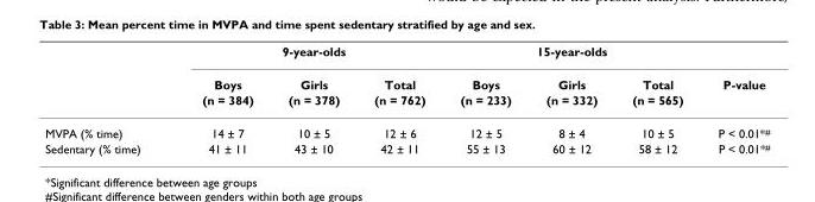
<table><thead><tr><td rowspan="3"></td><td colspan="3">9-year-olds</td><td colspan="3">15-year-olds</td><td rowspan="3">P-value</td></tr><tr><td rowspan="2">Boys (n = 384)</td><td rowspan="2">Girls (n = 378)</td><td rowspan="2">Total (n = 762)</td><td rowspan="2">Boys (n = 233)</td><td rowspan="2">Girls (n = 332)</td><td rowspan="2">Total (n = 565)</td></tr><tr></tr></thead><tbody><tr><td>MVPA (% time)</td><td>14 ± 7</td><td>10 ± 5</td><td>12 ± 6</td><td>12 ± 5</td><td>8 ± 4</td><td>10 ± 5</td><td>P &lt; 0.01*<sup>#</sup></td></tr><tr><td>Sedentary (% time)</td><td>41 ± 11</td><td>43 ± 10</td><td>42 ± 11</td><td>55 ± 13</td><td>60 ± 12</td><td>58 ± 12</td><td>P &lt; 0.01*<sup>#</sup></td></tr></tbody></table>